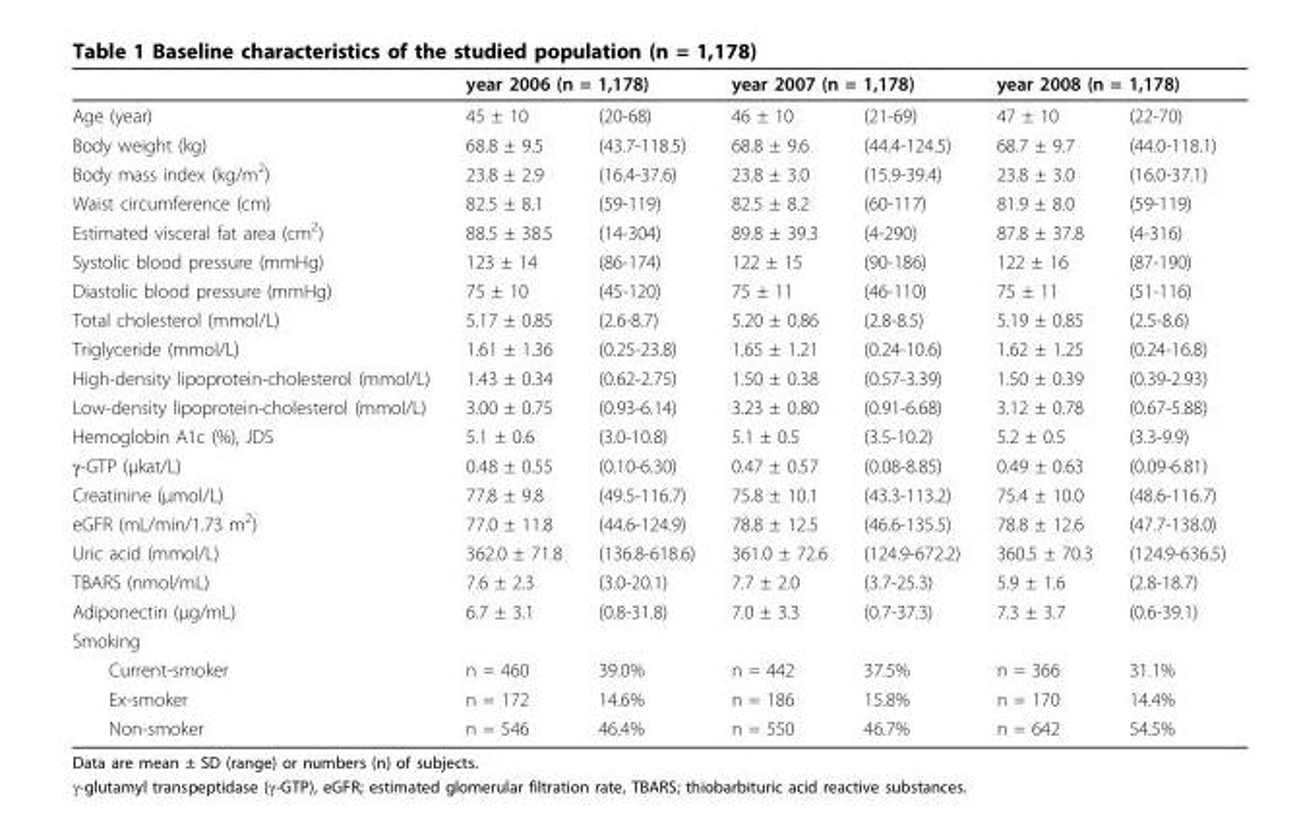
<table><thead><tr><td rowspan="2">Age (year)</td><td colspan="2">year 2006 (n = 1,178)</td><td colspan="2">year 2007 (n = 1,178)</td><td colspan="2">year 2008 (n = 1,178)</td></tr><tr><td>45 ± 10</td><td>(20-68)</td><td>46 ± 10</td><td>(21-69)</td><td>47 ± 10</td><td>(22-70)</td></tr></thead><tbody><tr><td>Body weight (kg)</td><td>68.8 ± 9.5</td><td>(43.7-118.5)</td><td>68.8 ± 9.6</td><td>(44.4-124.5)</td><td>68.7 ± 9.7</td><td>(44.0-118.1)</td></tr><tr><td>Body mass index (kg/m<sup>2</sup>)</td><td>23.8 ± 2.9</td><td>(16.4-37.6)</td><td>23.8 ± 3.0</td><td>(15.9-39.4)</td><td>23.8 ± 3.0</td><td>(16.0-37.1)</td></tr><tr><td>Waist circumference (cm)</td><td>82.5 ± 8.1</td><td>(59-119)</td><td>82.5 ± 8.2</td><td>(60-117)</td><td>81.9 ± 8.0</td><td>(59-119)</td></tr><tr><td>Estimated visceral fat area (cm<sup>2</sup>)</td><td>88.5 ± 38.5</td><td>(14-304)</td><td>89.8 ± 39.3</td><td>(4-290)</td><td>87.8 ± 37.8</td><td>(4-316)</td></tr><tr><td>Systolic blood pressure (mmHg)</td><td>123 ± 14</td><td>(86-174)</td><td>122 ± 15</td><td>(90-186)</td><td>122 ± 16</td><td>(87-190)</td></tr><tr><td>Diastolic blood pressure (mmHg)</td><td>75 ± 10</td><td>(45-120)</td><td>75 ± 11</td><td>(46-110)</td><td>75 ± 11</td><td>(51-116)</td></tr><tr><td>Total cholesterol (mmol/L)</td><td>5.17 ± 0.85</td><td>(2.6-8.7)</td><td>5.20 ± 0.86</td><td>(2.8-8.5)</td><td>5.19 ± 0.85</td><td>(2.5-8.6)</td></tr><tr><td>Triglyceride (mmol/L)</td><td>1.61 ± 1.36</td><td>(0.25-23.8)</td><td>1.65 ± 1.21</td><td>(0.24-10.6)</td><td>1.62 ± 1.25</td><td>(0.24-16.8)</td></tr><tr><td>High-density lipoprotein-cholesterol (mmol/L)</td><td>1.43 ± 0.34</td><td>(0.62-2.75)</td><td>1.50 ± 0.38</td><td>(0.57-3.39)</td><td>1.50 ± 0.39</td><td>(0.39-2.93)</td></tr><tr><td>Low-density lipoprotein-cholesterol (mmol/L)</td><td>3.00 ± 0.75</td><td>(0.93-6.14)</td><td>3.23 ± 0.80</td><td>(0.91-6.68)</td><td>3.12 ± 0.78</td><td>(0.67-5.88)</td></tr><tr><td>Hemoglobin A1c (%), JDS</td><td>5.1 ± 0.6</td><td>(3.0-10.8)</td><td>5.1 ± 0.5</td><td>(3.5-10.2)</td><td>5.2 ± 0.5</td><td>(3.3-9.9)</td></tr><tr><td>γ-GTP (μkat/L)</td><td>0.48 ± 0.55</td><td>(0.10-6.30)</td><td>0.47 ± 0.57</td><td>(0.08-8.85)</td><td>0.49 ± 0.63</td><td>(0.09-6.81)</td></tr><tr><td>Creatinine (μmol/L)</td><td>77.8 ± 9.8</td><td>(49.5-116.7)</td><td>75.8 ± 10.1</td><td>(43.3-113.2)</td><td>75.4 ± 10.0</td><td>(48.6-116.7)</td></tr><tr><td>eGFR (mL/min/1.73 m<sup>2</sup>)</td><td>77.0 ± 11.8</td><td>(44.6-124.9)</td><td>78.8 ± 12.5</td><td>(46.6-135.5)</td><td>78.8 ± 12.6</td><td>(47.7-138.0)</td></tr><tr><td>Uric acid (mmol/L)</td><td>362.0 ± 71.8</td><td>(136.8-618.6)</td><td>361.0 ± 72.6</td><td>(124.9-672.2)</td><td>360.5 ± 70.3</td><td>(124.9-636.5)</td></tr><tr><td>TBARS (nmol/mL)</td><td>7.6 ± 2.3</td><td>(3.0-20.1)</td><td>7.7 ± 2.0</td><td>(3.7-25.3)</td><td>5.9 ± 1.6</td><td>(2.8-18.7)</td></tr><tr><td>Adiponectin (μg/mL)</td><td>6.7 ± 3.1</td><td>(0.8-31.8)</td><td>7.0 ± 3.3</td><td>(0.7-37.3)</td><td>7.3 ± 3.7</td><td>(0.6-39.1)</td></tr><tr><td colspan="7">Smoking</td></tr><tr><td>Current-smoker</td><td>n = 460</td><td>39.0%</td><td>n = 442</td><td>37.5%</td><td>n = 366</td><td>31.1%</td></tr><tr><td>Ex-smoker</td><td>n = 172</td><td>14.6%</td><td>n = 186</td><td>15.8%</td><td>n = 170</td><td>14.4%</td></tr><tr><td>Non-smoker</td><td>n = 546</td><td>46.4%</td><td>n = 550</td><td>46.7%</td><td>n = 642</td><td>54.5%</td></tr></tbody></table>